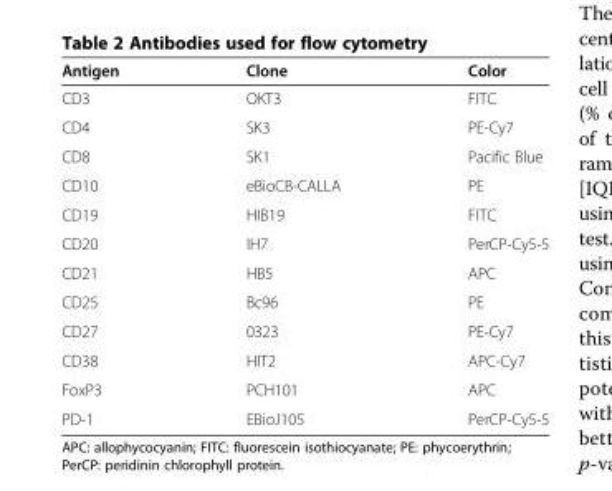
<table><thead><tr><td>Antigen</td><td>Clone</td><td>Color</td></tr></thead><tbody><tr><td>CD3</td><td>OKT3</td><td>FITC</td></tr><tr><td>CD4</td><td>SK3</td><td>PE-Cy7</td></tr><tr><td>CD8</td><td>SK1</td><td>Pacific Blue</td></tr><tr><td>CD10</td><td>eBioCB-CALLA</td><td>PE</td></tr><tr><td>CD19</td><td>HIB19</td><td>FITC</td></tr><tr><td>CD20</td><td>IH7</td><td>PerCP-Cy5-5</td></tr><tr><td>CD21</td><td>HB5</td><td>APC</td></tr><tr><td>CD25</td><td>Bc96</td><td>PE</td></tr><tr><td>CD27</td><td>0323</td><td>PE-Cy7</td></tr><tr><td>CD38</td><td>HIT2</td><td>APC-Cy7</td></tr><tr><td>FoxP3</td><td>PCH101</td><td>APC</td></tr><tr><td>PD-1</td><td>EBioJ105</td><td>PerCP-Cy5-5</td></tr></tbody></table>